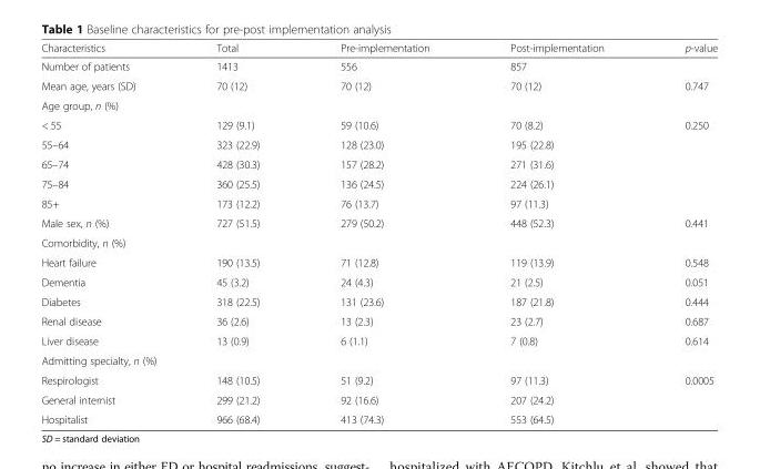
<table><thead><tr><td>Characteristics</td><td>Total</td><td>Pre-implementation</td><td>Post-implementation</td><td>p-value</td></tr></thead><tbody><tr><td>Number of patients</td><td>1413</td><td>556</td><td>857</td><td></td></tr><tr><td>Mean age, years (SD)</td><td>70 (12)</td><td>70 (12)</td><td>70 (12)</td><td>0.747</td></tr><tr><td colspan="5">Age group, n (%)</td></tr><tr><td>&lt; 55</td><td>129 (9.1)</td><td>59 (10.6)</td><td>70 (8.2)</td><td rowspan="5">0.250</td></tr><tr><td>55–64</td><td>323 (22.9)</td><td>128 (23.0)</td><td>195 (22.8)</td></tr><tr><td>65–74</td><td>428 (30.3)</td><td>157 (28.2)</td><td>271 (31.6)</td></tr><tr><td>75–84</td><td>360 (25.5)</td><td>136 (24.5)</td><td>224 (26.1)</td></tr><tr><td>85+</td><td>173 (12.2)</td><td>76 (13.7)</td><td>97 (11.3)</td></tr><tr><td>Male sex, n (%)</td><td>727 (51.5)</td><td>279 (50.2)</td><td>448 (52.3)</td><td>0.441</td></tr><tr><td colspan="5">Comorbidity, n (%)</td></tr><tr><td>Heart failure</td><td>190 (13.5)</td><td>71 (12.8)</td><td>119 (13.9)</td><td>0.548</td></tr><tr><td>Dementia</td><td>45 (3.2)</td><td>24 (4.3)</td><td>21 (2.5)</td><td>0.051</td></tr><tr><td>Diabetes</td><td>318 (22.5)</td><td>131 (23.6)</td><td>187 (21.8)</td><td>0.444</td></tr><tr><td>Renal disease</td><td>36 (2.6)</td><td>13 (2.3)</td><td>23 (2.7)</td><td>0.687</td></tr><tr><td>Liver disease</td><td>13 (0.9)</td><td>6 (1.1)</td><td>7 (0.8)</td><td>0.614</td></tr><tr><td colspan="5">Admitting specialty, n (%)</td></tr><tr><td>Respirologist</td><td>148 (10.5)</td><td>51 (9.2)</td><td>97 (11.3)</td><td rowspan="3">0.0005</td></tr><tr><td>General internist</td><td>299 (21.2)</td><td>92 (16.6)</td><td>207 (24.2)</td></tr><tr><td>Hospitalist</td><td>966 (68.4)</td><td>413 (74.3)</td><td>553 (64.5)</td></tr></tbody></table>